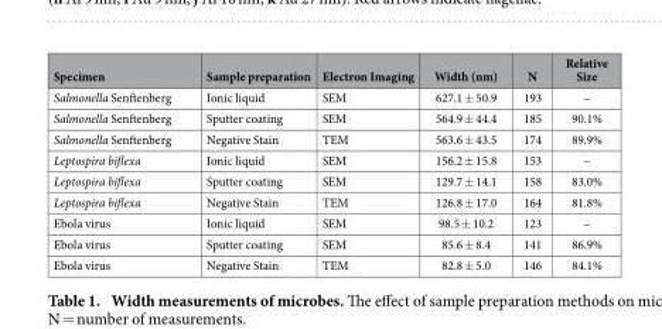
<table><thead><tr><td>Specimen</td><td>Sample preparation</td><td>Electron Imaging</td><td>Width (nm)</td><td>N</td><td>Relative Size</td></tr></thead><tbody><tr><td>Salmonella Senftenberg</td><td>Ionic liquid</td><td>SEM</td><td>627.1 ± 50.9</td><td>193</td><td>–</td></tr><tr><td>Salmonella Senftenberg</td><td>Sputter coating</td><td>SEM</td><td>564.9 ± 44.4</td><td>185</td><td>90.1%</td></tr><tr><td>Salmonella Senftenberg</td><td>Negative Stain</td><td>TEM</td><td>563.6 ± 43.5</td><td>174</td><td>89.9%</td></tr><tr><td>Leptospira biflexa</td><td>Ionic liquid</td><td>SEM</td><td>156.2 ± 15.8</td><td>153</td><td>–</td></tr><tr><td>Leptospira biflexa</td><td>Sputter coating</td><td>SEM</td><td>129.7 ± 14.1</td><td>158</td><td>83.0%</td></tr><tr><td>Leptospira biflexa</td><td>Negative Stain</td><td>TEM</td><td>126.8 ± 17.0</td><td>164</td><td>81.8%</td></tr><tr><td>Ebola virus</td><td>Ionic liquid</td><td>SEM</td><td>98.5 ± 10.2</td><td>123</td><td>–</td></tr><tr><td>Ebola virus</td><td>Sputter coating</td><td>SEM</td><td>85.6 ± 8.4</td><td>141</td><td>86.9%</td></tr><tr><td>Ebola virus</td><td>Negative Stain</td><td>TEM</td><td>82.8 ± 5.0</td><td>146</td><td>84.1%</td></tr></tbody></table>